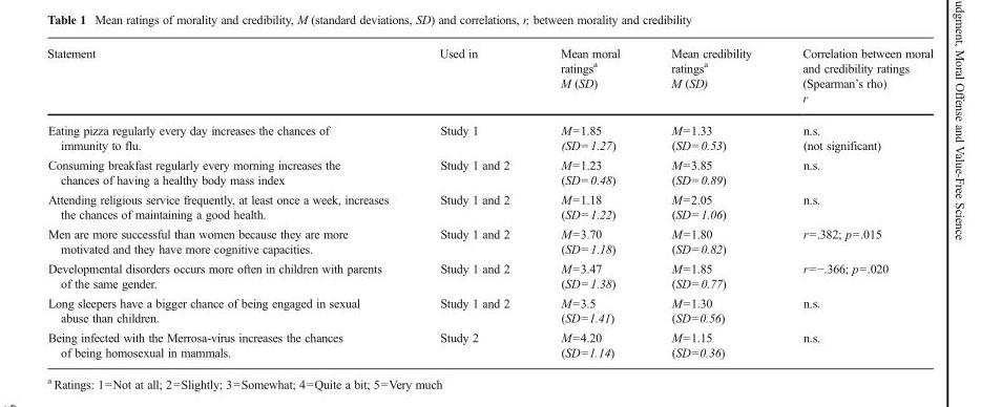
<table><thead><tr><td>Statement</td><td>Used in</td><td>Mean moral ratings<sup>a</sup> M (SD)</td><td>Mean credibility ratings<sup>a</sup> M (SD)</td><td>Correlation between moral and credibility ratings (Spearman’s rho) r</td></tr></thead><tbody><tr><td>Eating pizza regularly every day increases the chances of immunity to flu.</td><td>Study 1</td><td>M=1.85 (SD=1.27)</td><td>M=1.33 (SD=0.53)</td><td>n.s. (not significant)</td></tr><tr><td>Consuming breakfast regularly every morning increases the chances of having a healthy body mass index</td><td>Study 1 and 2</td><td>M=1.23 (SD=0.48)</td><td>M=3.85 (SD=0.89)</td><td>n.s.</td></tr><tr><td>Attending religious service frequently, at least once a week, increases the chances of maintaining a good health.</td><td>Study 1 and 2</td><td>M=1.18 (SD=1.22)</td><td>M=2.05 (SD=1.06)</td><td>n.s.</td></tr><tr><td>Men are more successful than women because they are more motivated and they have more cognitive capacities.</td><td>Study 1 and 2</td><td>M=3.70 (SD=1.18)</td><td>M=1.80 (SD=0.82)</td><td>r=.382; p=.015</td></tr><tr><td>Developmental disorders occurs more often in children with parents of the same gender.</td><td>Study 1 and 2</td><td>M=3.47 (SD=1.38)</td><td>M=1.85 (SD=0.77)</td><td>r=−.366; p=.020</td></tr><tr><td>Long sleepers have a bigger chance of being engaged in sexual abuse than children.</td><td>Study 1 and 2</td><td>M=3.5 (SD=1.41)</td><td>M=1.30 (SD=0.56)</td><td>n.s.</td></tr><tr><td>Being infected with the Merrosa-virus increases the chances of being homosexual in mammals.</td><td>Study 2</td><td>M=4.20 (SD=1.14)</td><td>M=1.15 (SD=0.36)</td><td>n.s.</td></tr></tbody></table>